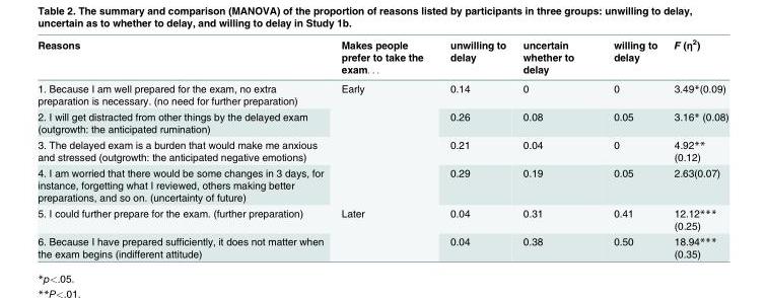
<table><thead><tr><td>Reasons</td><td>Makes people prefer to take the exam. . .</td><td>unwilling to delay</td><td>uncertain whether to delay</td><td>willing to delay</td><td>F (η<sup>2</sup>)</td></tr></thead><tbody><tr><td>1. Because I am well prepared for the exam, no extra preparation is necessary. (no need for further preparation)</td><td rowspan="4">Early</td><td>0.14</td><td>0</td><td>0</td><td>3.49*(0.09)</td></tr><tr><td>2. I will get distracted from other things by the delayed exam (outgrowth: the anticipated rumination)</td><td>0.26</td><td>0.08</td><td>0.05</td><td>3.16* (0.08)</td></tr><tr><td>3. The delayed exam is a burden that would make me anxious and stressed (outgrowth: the anticipated negative emotions)</td><td>0.21</td><td>0.04</td><td>0</td><td>4.92** (0.12)</td></tr><tr><td>4. I am worried that there would be some changes in 3 days, for instance, forgetting what I reviewed, others making better preparations, and so on. (uncertainty of future)</td><td>0.29</td><td>0.19</td><td>0.05</td><td>2.63(0.07)</td></tr><tr><td>5. I could further prepare for the exam. (further preparation)</td><td rowspan="2">Later</td><td>0.04</td><td>0.31</td><td>0.41</td><td>12.12*** (0.25)</td></tr><tr><td>6. Because I have prepared sufficiently, it does not matter when the exam begins (indifferent attitude)</td><td>0.04</td><td>0.38</td><td>0.50</td><td>18.94*** (0.35)</td></tr></tbody></table>